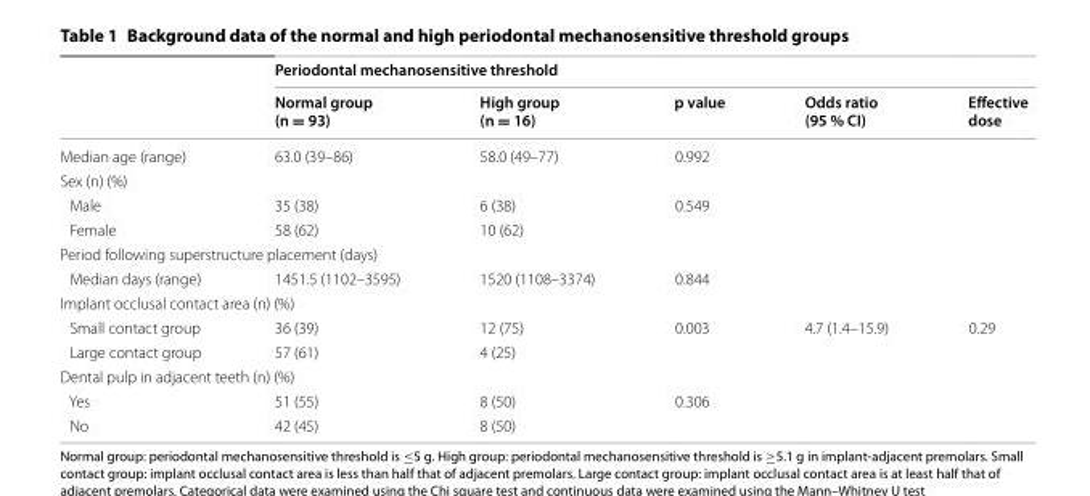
<table><thead><tr><td rowspan="2"></td><td colspan="5">Periodontal mechanosensitive threshold</td></tr><tr><td>Normal group (n = 93)</td><td>High group (n = 16)</td><td>p value</td><td>Odds ratio (95 % CI)</td><td>Effective dose</td></tr></thead><tbody><tr><td>Median age (range)</td><td>63.0 (39–86)</td><td>58.0 (49–77)</td><td>0.992</td><td></td><td></td></tr><tr><td colspan="6">Sex (n) (%)</td></tr><tr><td>Male</td><td>35 (38)</td><td>6 (38)</td><td>0.549</td><td></td><td></td></tr><tr><td>Female</td><td>58 (62)</td><td>10 (62)</td><td></td><td></td><td></td></tr><tr><td colspan="6">Period following superstructure placement (days)</td></tr><tr><td>Median days (range)</td><td>1451.5 (1102–3595)</td><td>1520 (1108–3374)</td><td>0.844</td><td></td><td></td></tr><tr><td colspan="6">Implant occlusal contact area (n) (%)</td></tr><tr><td>Small contact group</td><td>36 (39)</td><td>12 (75)</td><td>0.003</td><td>4.7 (1.4–15.9)</td><td>0.29</td></tr><tr><td>Large contact group</td><td>57 (61)</td><td>4 (25)</td><td></td><td></td><td></td></tr><tr><td colspan="6">Dental pulp in adjacent teeth (n) (%)</td></tr><tr><td>Yes</td><td>51 (55)</td><td>8 (50)</td><td>0.306</td><td></td><td></td></tr><tr><td>No</td><td>42 (45)</td><td>8 (50)</td><td></td><td></td><td></td></tr></tbody></table>